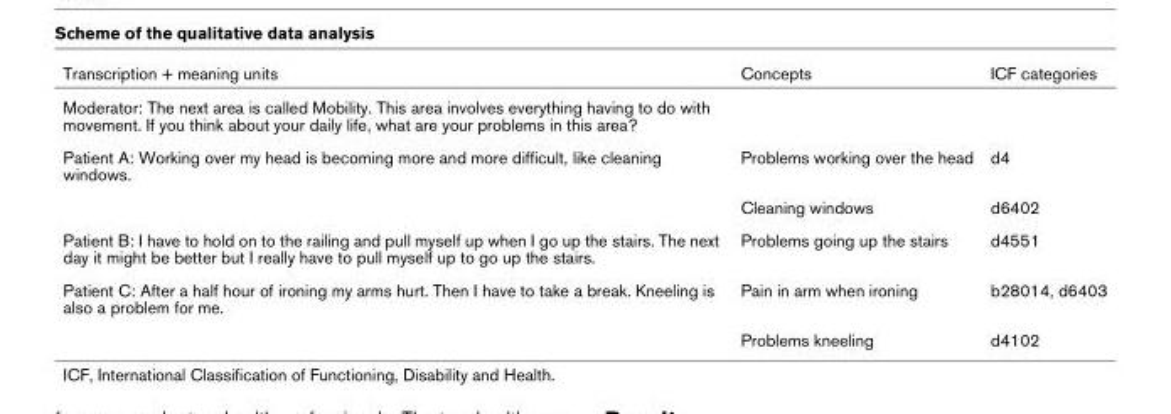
<table><thead><tr><td>Transcription + meaning units</td><td>Concepts</td><td>ICF categories</td></tr></thead><tbody><tr><td colspan="3">Moderator: The next area is called Mobility. This area involves everything having to do with movement. If you think about your daily life, what are your problems in this area?</td></tr><tr><td rowspan="2">Patient A: Working over my head is becoming more and more difficult, like cleaning windows.</td><td>Problems working over the head</td><td>d4</td></tr><tr><td>Cleaning windows</td><td>d6402</td></tr><tr><td>Patient B: I have to hold on to the railing and pull myself up when I go up the stairs. The next day it might be better but I really have to pull myself up to go up the stairs.</td><td>Problems going up the stairs</td><td>d4551</td></tr><tr><td rowspan="2">Patient C: After a half hour of ironing my arms hurt. Then I have to take a break. Kneeling is also a problem for me.</td><td>Pain in arm when ironing</td><td>b28014, d6403</td></tr><tr><td>Problems kneeling</td><td>d4102</td></tr></tbody></table>